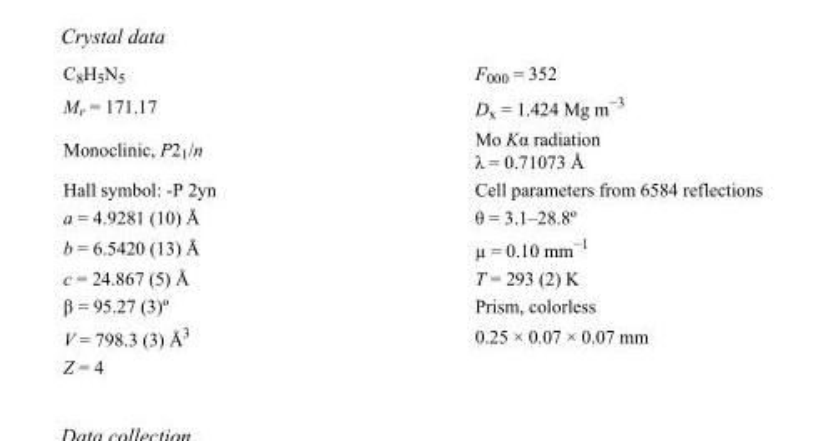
<table><tbody><tr><td>C<sub>8</sub>H<sub>5</sub>N<sub>5</sub></td><td>F<sub>000</sub> = 352</td></tr><tr><td>M<sub>r</sub> = 171.17</td><td>D<sub>x</sub> = 1.424 Mg m<sup>−3</sup></td></tr><tr><td>Monoclinic, P2<sub>1</sub>/n</td><td>Mo Kα radiation λ = 0.71073 Å</td></tr><tr><td>Hall symbol: -P 2yn</td><td>Cell parameters from 6584 reflections</td></tr><tr><td>a = 4.9281 (10) Å</td><td>θ = 3.1–28.8º</td></tr><tr><td>b = 6.5420 (13) Å</td><td>µ = 0.10 mm<sup>−1</sup></td></tr><tr><td>c = 24.867 (5) Å</td><td>T = 293 (2) K</td></tr><tr><td>β = 95.27 (3)º</td><td>Prism, colorless</td></tr><tr><td>V = 798.3 (3) Å<sup>3</sup></td><td>0.25 × 0.07 × 0.07 mm</td></tr><tr><td>Z = 4</td><td></td></tr></tbody></table>